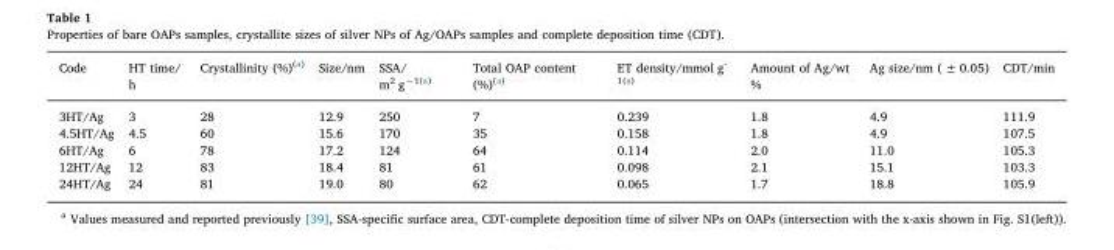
<table><thead><tr><td>Code</td><td>HT time/ h</td><td>Crystallinity (%)<sup>(</sup>a<sup>)</sup></td><td>Size/nm</td><td>SSA/ m<sup>2</sup> g<sup>−1(</sup>a<sup>)</sup></td><td>Total OAP content (%)<sup>(</sup>a<sup>)</sup></td><td>ET density/mmol g<sup>- 1(</sup>a<sup>)</sup></td><td>Amount of Ag/wt %</td><td>Ag size/nm ( ± 0.05)</td><td>CDT/min</td></tr></thead><tbody><tr><td>3HT/Ag</td><td>3</td><td>28</td><td>12.9</td><td>250</td><td>7</td><td>0.239</td><td>1.8</td><td>4.9</td><td>111.9</td></tr><tr><td>4.5HT/Ag</td><td>4.5</td><td>60</td><td>15.6</td><td>170</td><td>35</td><td>0.158</td><td>1.8</td><td>4.9</td><td>107.5</td></tr><tr><td>6HT/Ag</td><td>6</td><td>78</td><td>17.2</td><td>124</td><td>64</td><td>0.114</td><td>2.0</td><td>11.0</td><td>105.3</td></tr><tr><td>12HT/Ag</td><td>12</td><td>83</td><td>18.4</td><td>81</td><td>61</td><td>0.098</td><td>2.1</td><td>15.1</td><td>103.3</td></tr><tr><td>24HT/Ag</td><td>24</td><td>81</td><td>19.0</td><td>80</td><td>62</td><td>0.065</td><td>1.7</td><td>18.8</td><td>105.9</td></tr></tbody></table>